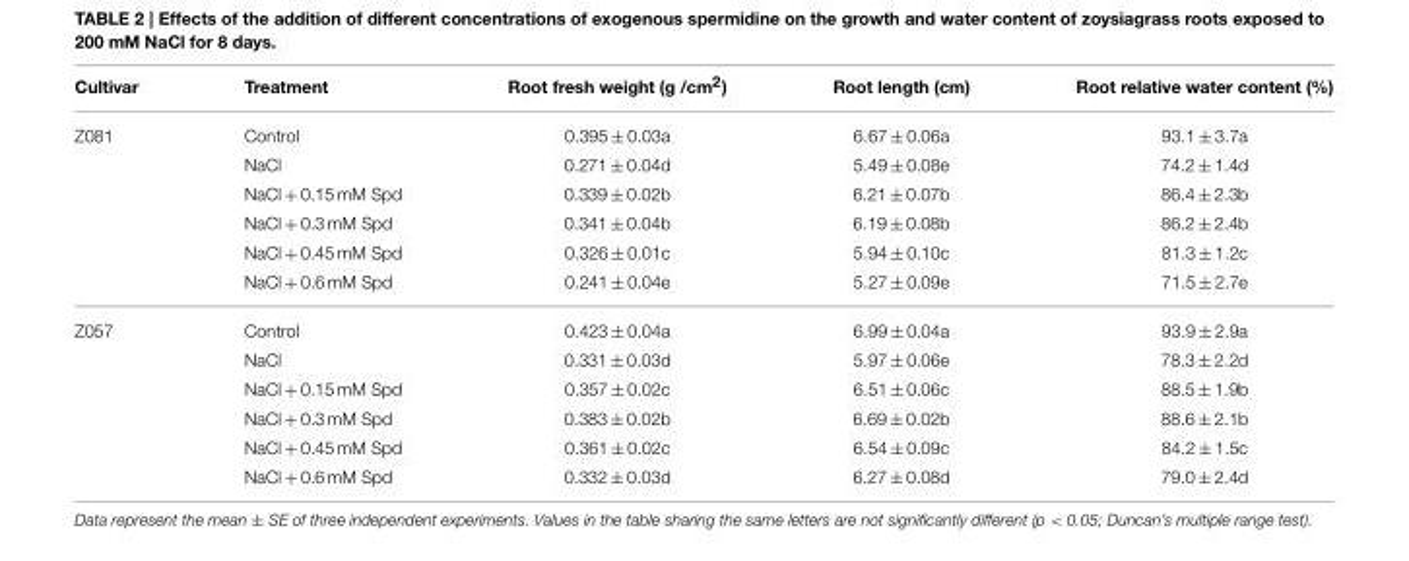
<table><thead><tr><td>Cultivar</td><td>Treatment</td><td>Root fresh weight (g /cm<sup>2</sup>)</td><td>Root length (cm)</td><td>Root relative water content (%)</td></tr></thead><tbody><tr><td rowspan="6">Z081</td><td>Control</td><td>0.395 ± 0.03a</td><td>6.67 ± 0.06a</td><td>93.1 ± 3.7a</td></tr><tr><td>NaCl</td><td>0.271 ± 0.04d</td><td>5.49 ± 0.08e</td><td>74.2 ± 1.4d</td></tr><tr><td>NaCl + 0.15 mM Spd</td><td>0.339 ± 0.02b</td><td>6.21 ± 0.07b</td><td>86.4 ± 2.3b</td></tr><tr><td>NaCl + 0.3 mM Spd</td><td>0.341 ± 0.04b</td><td>6.19 ± 0.08b</td><td>86.2 ± 2.4b</td></tr><tr><td>NaCl + 0.45 mM Spd</td><td>0.326 ± 0.01c</td><td>5.94 ± 0.10c</td><td>81.3 ± 1.2c</td></tr><tr><td>NaCl + 0.6 mM Spd</td><td>0.241 ± 0.04e</td><td>5.27 ± 0.09e</td><td>71.5 ± 2.7e</td></tr><tr><td rowspan="6">Z057</td><td>Control</td><td>0.423 ± 0.04a</td><td>6.99 ± 0.04a</td><td>93.9 ± 2.9a</td></tr><tr><td>NaCl</td><td>0.331 ± 0.03d</td><td>5.97 ± 0.06e</td><td>78.3 ± 2.2d</td></tr><tr><td>NaCl + 0.15 mM Spd</td><td>0.357 ± 0.02c</td><td>6.51 ± 0.06c</td><td>88.5 ± 1.9b</td></tr><tr><td>NaCl + 0.3 mM Spd</td><td>0.383 ± 0.02b</td><td>6.69 ± 0.02b</td><td>88.6 ± 2.1b</td></tr><tr><td>NaCl + 0.45 mM Spd</td><td>0.361 ± 0.02c</td><td>6.54 ± 0.09c</td><td>84.2 ± 1.5c</td></tr><tr><td>NaCl + 0.6 mM Spd</td><td>0.332 ± 0.03d</td><td>6.27 ± 0.08d</td><td>79.0 ± 2.4d</td></tr></tbody></table>